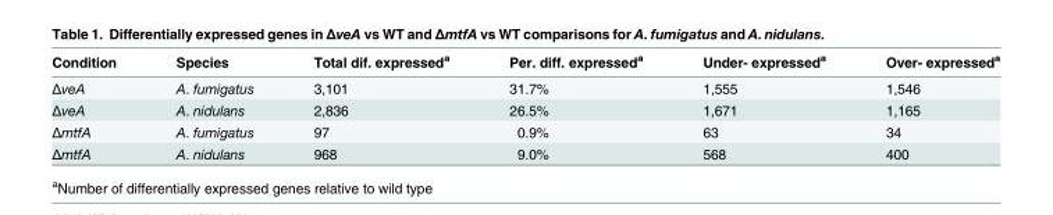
<table><thead><tr><td>Condition</td><td>Species</td><td>Total dif. expressed<sup>a</sup></td><td>Per. diff. expressed<sup>a</sup></td><td>Under- expressed<sup>a</sup></td><td>Over- expressed<sup>a</sup></td></tr></thead><tbody><tr><td>ΔveA</td><td>A. fumigatus</td><td>3,101</td><td>31.7%</td><td>1,555</td><td>1,546</td></tr><tr><td>ΔveA</td><td>A. nidulans</td><td>2,836</td><td>26.5%</td><td>1,671</td><td>1,165</td></tr><tr><td>ΔmtfA</td><td>A. fumigatus</td><td>97</td><td>0.9%</td><td>63</td><td>34</td></tr><tr><td>ΔmtfA</td><td>A. nidulans</td><td>968</td><td>9.0%</td><td>568</td><td>400</td></tr></tbody></table>